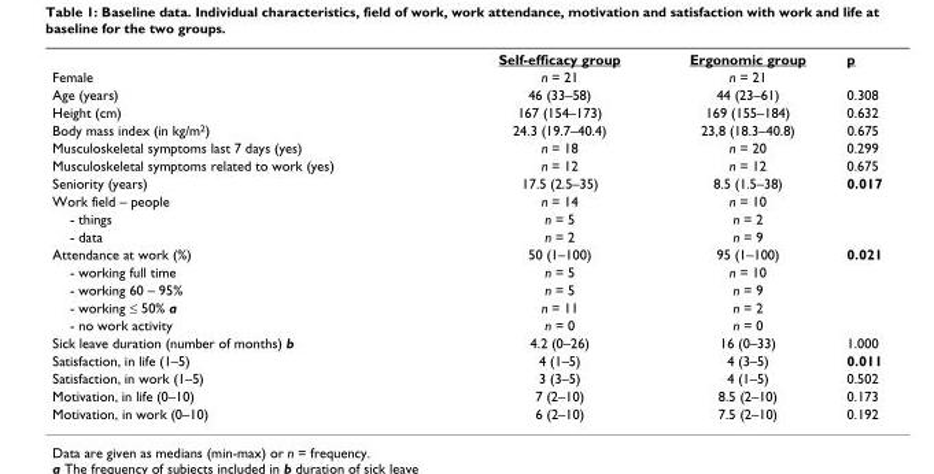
<table><thead><tr><td></td><td>Self-efficacy group</td><td>Ergonomic group</td><td>p</td></tr></thead><tbody><tr><td>Female</td><td>n = 21</td><td>n = 21</td><td></td></tr><tr><td>Age (years)</td><td>46 (33–58)</td><td>44 (23–61)</td><td>0.308</td></tr><tr><td>Height (cm)</td><td>167 (154–173)</td><td>169 (155–184)</td><td>0.632</td></tr><tr><td>Body mass index (in kg/m<sup>2</sup>)</td><td>24.3 (19.7–40.4)</td><td>23,8 (18.3–40.8)</td><td>0.675</td></tr><tr><td>Musculoskeletal symptoms last 7 days (yes)</td><td>n = 18</td><td>n = 20</td><td>0.299</td></tr><tr><td>Musculoskeletal symptoms related to work (yes)</td><td>n = 12</td><td>n = 12</td><td>0.675</td></tr><tr><td>Seniority (years)</td><td>17.5 (2.5–35)</td><td>8.5 (1.5–38)</td><td>0.017</td></tr><tr><td>Work field – people</td><td>n = 14</td><td>n = 10</td><td></td></tr><tr><td>- things</td><td>n = 5</td><td>n = 2</td><td></td></tr><tr><td>- data</td><td>n = 2</td><td>n = 9</td><td></td></tr><tr><td>Attendance at work (%)</td><td>50 (1–100)</td><td>95 (1–100)</td><td>0.021</td></tr><tr><td>- working full time</td><td>n = 5</td><td>n = 10</td><td></td></tr><tr><td>- working 60 – 95%</td><td>n = 5</td><td>n = 9</td><td></td></tr><tr><td>- working ≤ 50% a</td><td>n = 11</td><td>n = 2</td><td></td></tr><tr><td>- no work activity</td><td>n = 0</td><td>n = 0</td><td></td></tr><tr><td>Sick leave duration (number of months) b</td><td>4.2 (0–26)</td><td>16 (0–33)</td><td>1.000</td></tr><tr><td>Satisfaction, in life (1–5)</td><td>4 (1–5)</td><td>4 (3–5)</td><td>0.011</td></tr><tr><td>Satisfaction, in work (1–5)</td><td>3 (3–5)</td><td>4 (1–5)</td><td>0.502</td></tr><tr><td>Motivation, in life (0–10)</td><td>7 (2–10)</td><td>8.5 (2–10)</td><td>0.173</td></tr><tr><td>Motivation, in work (0–10)</td><td>6 (2–10)</td><td>7.5 (2–10)</td><td>0.192</td></tr></tbody></table>